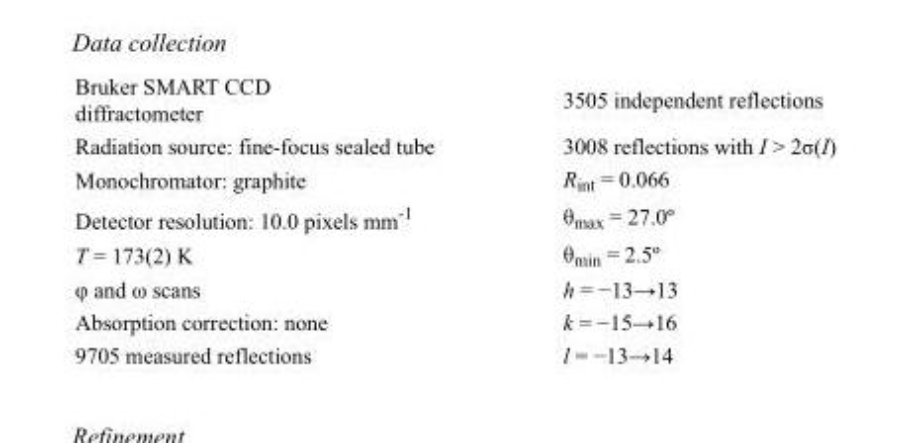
<table><tbody><tr><td>Bruker SMART CCD diffractometer</td><td>3505 independent reflections</td></tr><tr><td>Radiation source: fine-focus sealed tube</td><td>3008 reflections with I &gt; 2σ(I)</td></tr><tr><td>Monochromator: graphite</td><td>R<sub>int</sub> = 0.066</td></tr><tr><td>Detector resolution: 10.0 pixels mm<sup>-1</sup></td><td>θ<sub>max</sub> = 27.0º</td></tr><tr><td>T = 173(2) K</td><td>θ<sub>min</sub> = 2.5º</td></tr><tr><td>φ and ω scans</td><td>h = −13→13</td></tr><tr><td>Absorption correction: none</td><td>k = −15→16</td></tr><tr><td>9705 measured reflections</td><td>l = −13→14</td></tr></tbody></table>